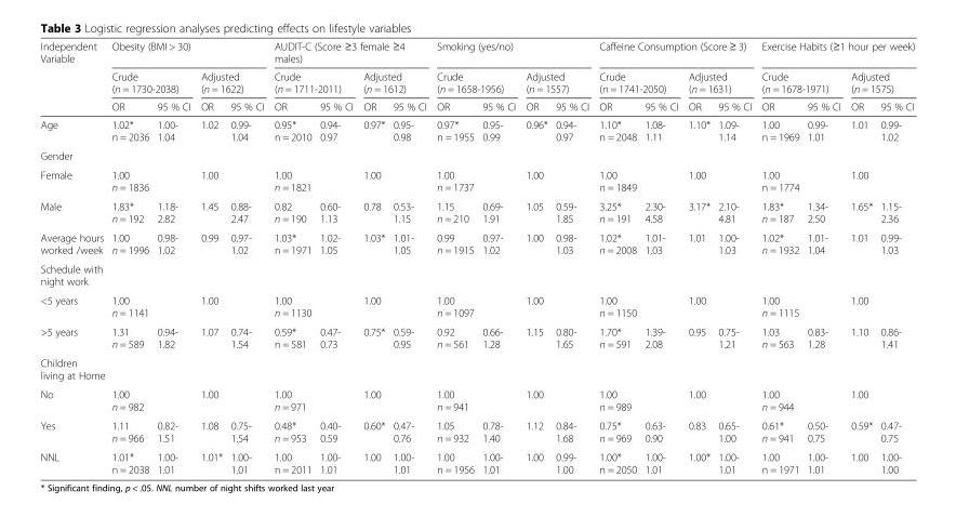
<table><thead><tr><td rowspan="3">Independent Variable</td><td colspan="4">Obesity (BMI &gt; 30)</td><td colspan="4">AUDIT-C (Score ≥3 female ≥4 males)</td><td colspan="4">Smoking (yes/no)</td><td colspan="4">Caffeine Consumption (Score ≥ 3)</td><td colspan="4">Exercise Habits (≥1 hour per week)</td></tr><tr><td colspan="2">Crude (n = 1730-2038)</td><td colspan="2">Adjusted (n = 1622)</td><td colspan="2">Crude (n = 1711-2011)</td><td colspan="2">Adjusted (n = 1612)</td><td colspan="2">Crude (n = 1658-1956)</td><td colspan="2">Adjusted (n = 1557)</td><td colspan="2">Crude (n = 1741-2050)</td><td colspan="2">Adjusted (n = 1631)</td><td colspan="2">Crude (n = 1678-1971)</td><td colspan="2">Adjusted (n = 1575)</td></tr><tr><td>OR</td><td>95 % CI</td><td>OR</td><td>95 % CI</td><td>OR</td><td>95 % CI</td><td>OR</td><td>95 % CI</td><td>OR</td><td>95 % CI</td><td>OR</td><td>95 % CI</td><td>OR</td><td>95 % CI</td><td>OR</td><td>95 % CI</td><td>OR</td><td>95 % CI</td><td>OR</td><td>95 % CI</td></tr></thead><tbody><tr><td>Age</td><td>1.02* n = 2036</td><td>1.00- 1.04</td><td>1.02</td><td>0.99- 1.04</td><td>0.95* n = 2010</td><td>0.94- 0.97</td><td>0.97*</td><td>0.95- 0.98</td><td>0.97* n = 1955</td><td>0.95- 0.99</td><td>0.96*</td><td>0.94- 0.97</td><td>1.10* n = 2048</td><td>1.08- 1.11</td><td>1.10*</td><td>1.09- 1.14</td><td>1.00 n = 1969</td><td>0.99- 1.01</td><td>1.01</td><td>0.99- 1.02</td></tr><tr><td colspan="21">Gender</td></tr><tr><td>Female</td><td>1.00 n = 1836</td><td></td><td>1.00</td><td></td><td>1.00 n = 1821</td><td></td><td>1.00</td><td></td><td>1.00 n = 1737</td><td></td><td>1.00</td><td></td><td>1.00 n = 1849</td><td></td><td>1.00</td><td></td><td>1.00 n = 1774</td><td></td><td>1.00</td><td></td></tr><tr><td>Male</td><td>1.83* n = 192</td><td>1.18- 2.82</td><td>1.45</td><td>0.88- 2.47</td><td>0.82 n = 190</td><td>0.60- 1.13</td><td>0.78</td><td>0.53- 1.15</td><td>1.15 n = 210</td><td>0.69- 1.91</td><td>1.05</td><td>0.59- 1.85</td><td>3.25* n = 191</td><td>2.30- 4.58</td><td>3.17*</td><td>2.10- 4.81</td><td>1.83* n = 187</td><td>1.34- 2.50</td><td>1.65*</td><td>1.15- 2.36</td></tr><tr><td>Average hours worked /week</td><td>1.00 n = 1996</td><td>0.98- 1.02</td><td>0.99</td><td>0.97- 1.02</td><td>1.03* n = 1971</td><td>1.02- 1.05</td><td>1.03*</td><td>1.01- 1.05</td><td>0.99 n = 1915</td><td>0.97- 1.02</td><td>1.00</td><td>0.98- 1.03</td><td>1.02* n = 2008</td><td>1.01- 1.03</td><td>1.01</td><td>1.00- 1.03</td><td>1.02* n = 1932</td><td>1.01- 1.04</td><td>1.01</td><td>0.99- 1.03</td></tr><tr><td colspan="21">Schedule with night work</td></tr><tr><td>&lt;5 years</td><td>1.00 n = 1141</td><td></td><td>1.00</td><td></td><td>1.00 n = 1130</td><td></td><td>1.00</td><td></td><td>1.00 n = 1097</td><td></td><td>1.00</td><td></td><td>1.00 n = 1150</td><td></td><td>1.00</td><td></td><td>1.00 n = 1115</td><td></td><td>1.00</td><td></td></tr><tr><td>&gt;5 years</td><td>1.31 n = 589</td><td>0.94- 1.82</td><td>1.07</td><td>0.74- 1.54</td><td>0.59* n = 581</td><td>0.47- 0.73</td><td>0.75*</td><td>0.59- 0.95</td><td>0.92 n = 561</td><td>0.66- 1.28</td><td>1.15</td><td>0.80- 1.65</td><td>1.70* n = 591</td><td>1.39- 2.08</td><td>0.95</td><td>0.75- 1.21</td><td>1.03 n = 563</td><td>0.83- 1.28</td><td>1.10</td><td>0.86- 1.41</td></tr><tr><td colspan="21">Children living at Home</td></tr><tr><td>No</td><td>1.00 n = 982</td><td></td><td>1.00</td><td></td><td>1.00 n = 971</td><td></td><td>1.00</td><td></td><td>1.00 n = 941</td><td></td><td>1.00</td><td></td><td>1.00 n = 989</td><td></td><td>1.00</td><td></td><td>1.00 n = 944</td><td></td><td>1.00</td><td></td></tr><tr><td>Yes</td><td>1.11 n = 966</td><td>0.82- 1.51</td><td>1.08</td><td>0.75- 1.54</td><td>0.48* n = 953</td><td>0.40- 0.59</td><td>0.60*</td><td>0.47- 0.76</td><td>1.05 n = 932</td><td>0.78- 1.40</td><td>1.12</td><td>0.84- 1.68</td><td>0.75* n = 969</td><td>0.63- 0.90</td><td>0.83</td><td>0.65- 1.00</td><td>0.61* n = 941</td><td>0.50- 0.75</td><td>0.59*</td><td>0.47- 0.75</td></tr><tr><td>NNL</td><td>1.01* n = 2038</td><td>1.00- 1.01</td><td>1.01*</td><td>1.00- 1.01</td><td>1.00 n = 2011</td><td>1.00- 1.01</td><td>1.00</td><td>1.00- 1.01</td><td>1.00 n = 1956</td><td>1.00- 1.01</td><td>1.00</td><td>0.99- 1.00</td><td>1.00* n = 2050</td><td>1.00- 1.01</td><td>1.00*</td><td>1.00- 1.01</td><td>1.00 n = 1971</td><td>1.00- 1.01</td><td>1.00</td><td>1.00- 1.00</td></tr></tbody></table>